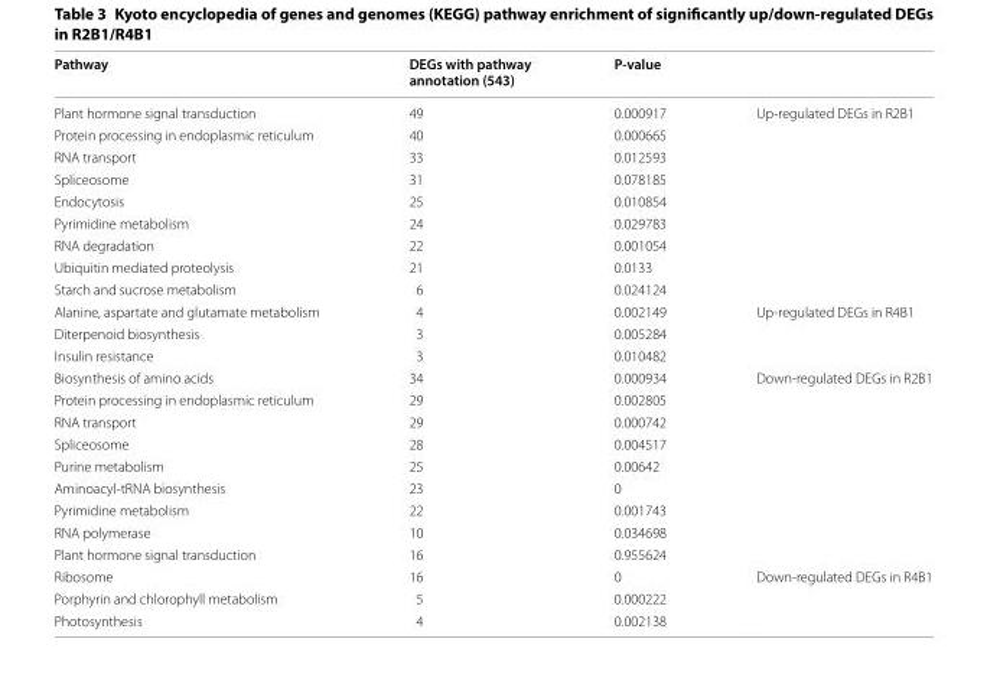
<table><thead><tr><td>Pathway</td><td>DEGs with pathway annotation (543)</td><td>P‑value</td><td></td></tr></thead><tbody><tr><td>Plant hormone signal transduction</td><td>49</td><td>0.000917</td><td rowspan="9">Up-regulated DEGs in R2B1</td></tr><tr><td>Protein processing in endoplasmic reticulum</td><td>40</td><td>0.000665</td></tr><tr><td>RNA transport</td><td>33</td><td>0.012593</td></tr><tr><td>Spliceosome</td><td>31</td><td>0.078185</td></tr><tr><td>Endocytosis</td><td>25</td><td>0.010854</td></tr><tr><td>Pyrimidine metabolism</td><td>24</td><td>0.029783</td></tr><tr><td>RNA degradation</td><td>22</td><td>0.001054</td></tr><tr><td>Ubiquitin mediated proteolysis</td><td>21</td><td>0.0133</td></tr><tr><td>Starch and sucrose metabolism</td><td>6</td><td>0.024124</td></tr><tr><td>Alanine, aspartate and glutamate metabolism</td><td>4</td><td>0.002149</td><td rowspan="3">Up-regulated DEGs in R4B1</td></tr><tr><td>Diterpenoid biosynthesis</td><td>3</td><td>0.005284</td></tr><tr><td>Insulin resistance</td><td>3</td><td>0.010482</td></tr><tr><td>Biosynthesis of amino acids</td><td>34</td><td>0.000934</td><td rowspan="9">Down-regulated DEGs in R2B1</td></tr><tr><td>Protein processing in endoplasmic reticulum</td><td>29</td><td>0.002805</td></tr><tr><td>RNA transport</td><td>29</td><td>0.000742</td></tr><tr><td>Spliceosome</td><td>28</td><td>0.004517</td></tr><tr><td>Purine metabolism</td><td>25</td><td>0.00642</td></tr><tr><td>Aminoacyl-tRNA biosynthesis</td><td>23</td><td>0</td></tr><tr><td>Pyrimidine metabolism</td><td>22</td><td>0.001743</td></tr><tr><td>RNA polymerase</td><td>10</td><td>0.034698</td></tr><tr><td>Plant hormone signal transduction</td><td>16</td><td>0.955624</td></tr><tr><td>Ribosome</td><td>16</td><td>0</td><td rowspan="3">Down-regulated DEGs in R4B1</td></tr><tr><td>Porphyrin and chlorophyll metabolism</td><td>5</td><td>0.000222</td></tr><tr><td>Photosynthesis</td><td>4</td><td>0.002138</td></tr></tbody></table>